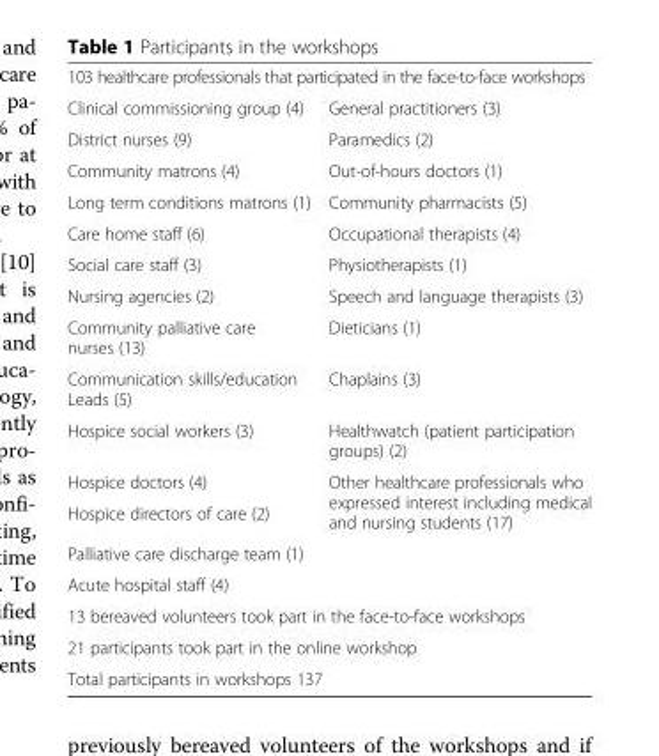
<table><tbody><tr><td colspan="2">103 healthcare professionals that participated in the face-to-face workshops</td></tr><tr><td>Clinical commissioning group (4)</td><td>General practitioners (3)</td></tr><tr><td>District nurses (9)</td><td>Paramedics (2)</td></tr><tr><td>Community matrons (4)</td><td>Out-of-hours doctors (1)</td></tr><tr><td>Long term conditions matrons (1)</td><td>Community pharmacists (5)</td></tr><tr><td>Care home staff (6)</td><td>Occupational therapists (4)</td></tr><tr><td>Social care staff (3)</td><td>Physiotherapists (1)</td></tr><tr><td>Nursing agencies (2)</td><td>Speech and language therapists (3)</td></tr><tr><td>Community palliative care nurses (13)</td><td>Dieticians (1)</td></tr><tr><td>Communication skills/education Leads (5)</td><td>Chaplains (3)</td></tr><tr><td>Hospice social workers (3)</td><td>Healthwatch (patient participation groups) (2)</td></tr><tr><td>Hospice doctors (4)</td><td rowspan="2">Other healthcare professionals who expressed interest including medical and nursing students (17)</td></tr><tr><td>Hospice directors of care (2)</td></tr><tr><td colspan="2">Palliative care discharge team (1)</td></tr><tr><td colspan="2">Acute hospital staff (4)</td></tr><tr><td colspan="2">13 bereaved volunteers took part in the face-to-face workshops</td></tr><tr><td colspan="2">21 participants took part in the online workshop</td></tr><tr><td colspan="2">Total participants in workshops 137</td></tr></tbody></table>